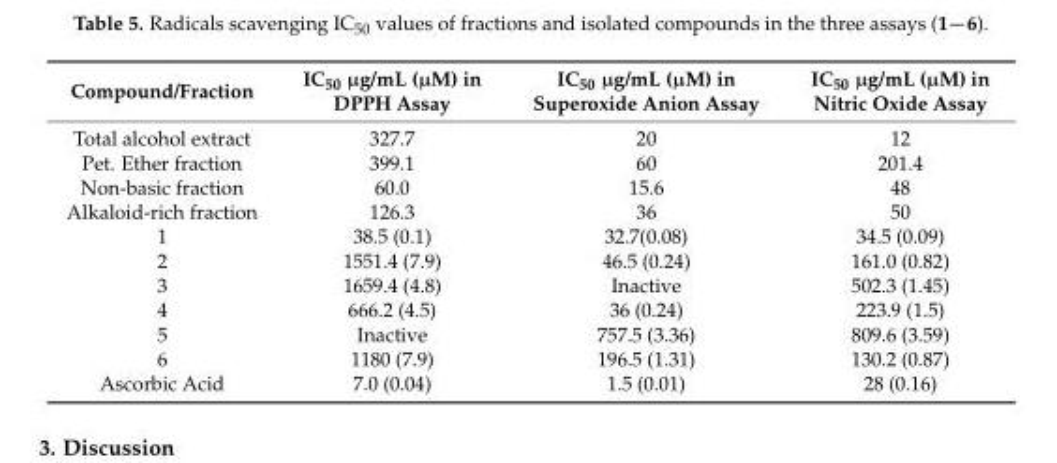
<table><thead><tr><td>Compound/Fraction</td><td>IC<sub>50</sub> µg/mL (µM) in DPPH Assay</td><td>IC<sub>50</sub> µg/mL (µM) in Superoxide Anion Assay</td><td>IC<sub>50</sub> µg/mL (µM) in Nitric Oxide Assay</td></tr></thead><tbody><tr><td>Total alcohol extract</td><td>327.7</td><td>20</td><td>12</td></tr><tr><td>Pet. Ether fraction</td><td>399.1</td><td>60</td><td>201.4</td></tr><tr><td>Non-basic fraction</td><td>60.0</td><td>15.6</td><td>48</td></tr><tr><td>Alkaloid-rich fraction</td><td>126.3</td><td>36</td><td>50</td></tr><tr><td>1</td><td>38.5 (0.1)</td><td>32.7(0.08)</td><td>34.5 (0.09)</td></tr><tr><td>2</td><td>1551.4 (7.9)</td><td>46.5 (0.24)</td><td>161.0 (0.82)</td></tr><tr><td>3</td><td>1659.4 (4.8)</td><td>Inactive</td><td>502.3 (1.45)</td></tr><tr><td>4</td><td>666.2 (4.5)</td><td>36 (0.24)</td><td>223.9 (1.5)</td></tr><tr><td>5</td><td>Inactive</td><td>757.5 (3.36)</td><td>809.6 (3.59)</td></tr><tr><td>6</td><td>1180 (7.9)</td><td>196.5 (1.31)</td><td>130.2 (0.87)</td></tr><tr><td>Ascorbic Acid</td><td>7.0 (0.04)</td><td>1.5 (0.01)</td><td>28 (0.16)</td></tr></tbody></table>